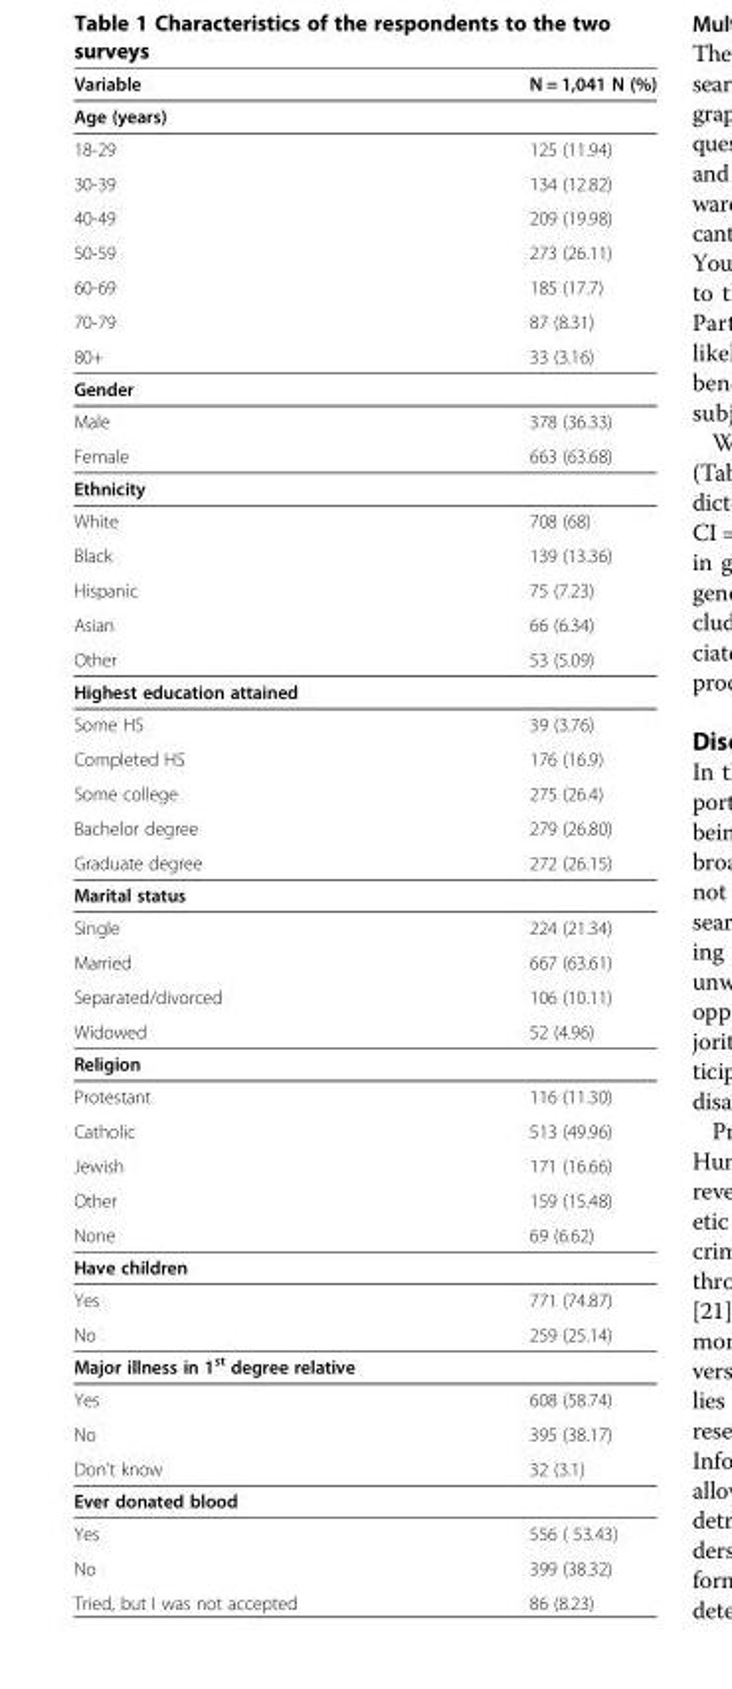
<table><thead><tr><td>Variable</td><td>N = 1,041 N (%)</td></tr></thead><tbody><tr><td colspan="2">Age (years)</td></tr><tr><td>18-29</td><td>125 (11.94)</td></tr><tr><td>30-39</td><td>134 (12.82)</td></tr><tr><td>40-49</td><td>209 (19.98)</td></tr><tr><td>50-59</td><td>273 (26.11)</td></tr><tr><td>60-69</td><td>185 (17.7)</td></tr><tr><td>70-79</td><td>87 (8.31)</td></tr><tr><td>80+</td><td>33 (3.16)</td></tr><tr><td colspan="2">Gender</td></tr><tr><td>Male</td><td>378 (36.33)</td></tr><tr><td>Female</td><td>663 (63.68)</td></tr><tr><td colspan="2">Ethnicity</td></tr><tr><td>White</td><td>708 (68)</td></tr><tr><td>Black</td><td>139 (13.36)</td></tr><tr><td>Hispanic</td><td>75 (7.23)</td></tr><tr><td>Asian</td><td>66 (6.34)</td></tr><tr><td>Other</td><td>53 (5.09)</td></tr><tr><td colspan="2">Highest education attained</td></tr><tr><td>Some HS</td><td>39 (3.76)</td></tr><tr><td>Completed HS</td><td>176 (16.9)</td></tr><tr><td>Some college</td><td>275 (26.4)</td></tr><tr><td>Bachelor degree</td><td>279 (26.80)</td></tr><tr><td>Graduate degree</td><td>272 (26.15)</td></tr><tr><td colspan="2">Marital status</td></tr><tr><td>Single</td><td>224 (21.34)</td></tr><tr><td>Married</td><td>667 (63.61)</td></tr><tr><td>Separated/divorced</td><td>106 (10.11)</td></tr><tr><td>Widowed</td><td>52 (4.96)</td></tr><tr><td colspan="2">Religion</td></tr><tr><td>Protestant</td><td>116 (11.30)</td></tr><tr><td>Catholic</td><td>513 (49.96)</td></tr><tr><td>Jewish</td><td>171 (16.66)</td></tr><tr><td>Other</td><td>159 (15.48)</td></tr><tr><td>None</td><td>69 (6.62)</td></tr><tr><td colspan="2">Have children</td></tr><tr><td>Yes</td><td>771 (74.87)</td></tr><tr><td>No</td><td>259 (25.14)</td></tr><tr><td colspan="2">Major illness in 1<sup>st</sup> degree relative</td></tr><tr><td>Yes</td><td>608 (58.74)</td></tr><tr><td>No</td><td>395 (38.17)</td></tr><tr><td>Don’t know</td><td>32 (3.1)</td></tr><tr><td colspan="2">Ever donated blood</td></tr><tr><td>Yes</td><td>556 ( 53.43)</td></tr><tr><td>No</td><td>399 (38.32)</td></tr><tr><td>Tried, but I was not accepted</td><td>86 (8.23)</td></tr></tbody></table>